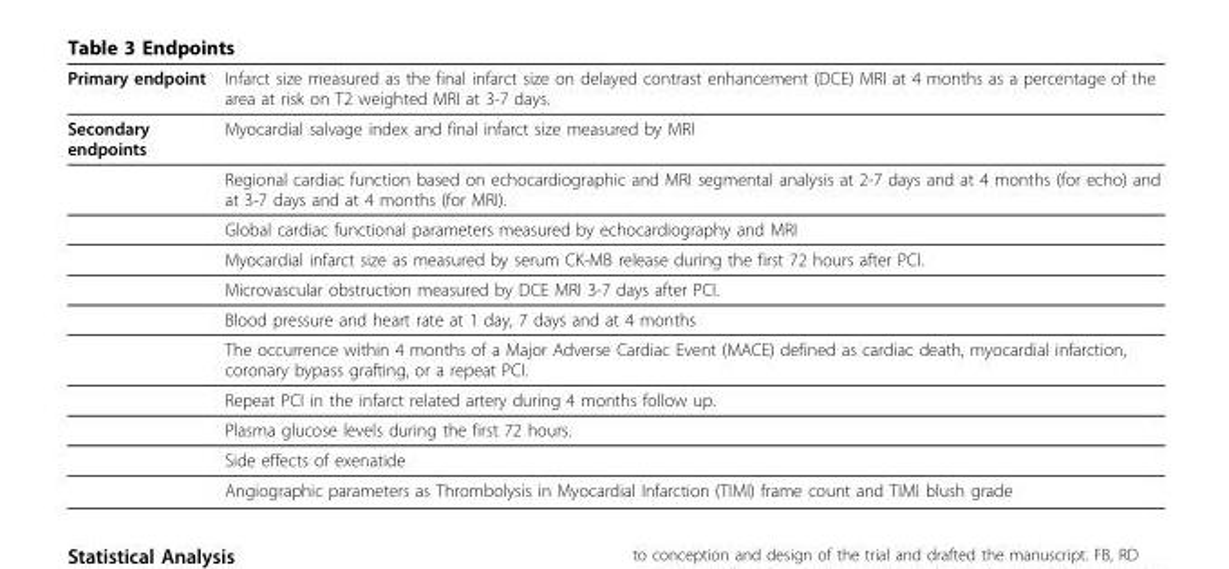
<table><thead><tr><td>Primary endpoint</td><td>Infarct size measured as the final infarct size on delayed contrast enhancement (DCE) MRI at 4 months as a percentage of the area at risk on T2 weighted MRI at 3-7 days.</td></tr></thead><tbody><tr><td rowspan="11">Secondary endpoints</td><td>Myocardial salvage index and final infarct size measured by MRI</td></tr><tr><td>Regional cardiac function based on echocardiographic and MRI segmental analysis at 2-7 days and at 4 months (for echo) and at 3-7 days and at 4 months (for MRI).</td></tr><tr><td>Global cardiac functional parameters measured by echocardiography and MRI</td></tr><tr><td>Myocardial infarct size as measured by serum CK-MB release during the first 72 hours after PCI.</td></tr><tr><td>Microvascular obstruction measured by DCE MRI 3-7 days after PCI.</td></tr><tr><td>Blood pressure and heart rate at 1 day, 7 days and at 4 months</td></tr><tr><td>The occurrence within 4 months of a Major Adverse Cardiac Event (MACE) defined as cardiac death, myocardial infarction, coronary bypass grafting, or a repeat PCI.</td></tr><tr><td>Repeat PCI in the infarct related artery during 4 months follow up.</td></tr><tr><td>Plasma glucose levels during the first 72 hours.</td></tr><tr><td>Side effects of exenatide</td></tr><tr><td>Angiographic parameters as Thrombolysis in Myocardial Infarction (TIMI) frame count and TIMI blush grade</td></tr></tbody></table>